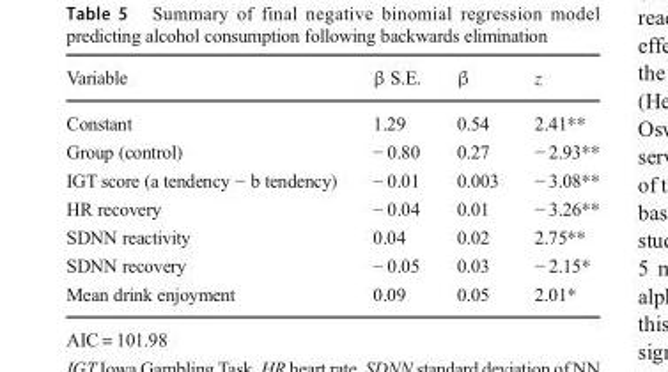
<table><thead><tr><td>Variable</td><td>β S.E.</td><td>β</td><td>z</td></tr></thead><tbody><tr><td>Constant</td><td>1.29</td><td>0.54</td><td>2.41**</td></tr><tr><td>Group (control)</td><td>− 0.80</td><td>0.27</td><td>− 2.93**</td></tr><tr><td>IGT score (a tendency − b tendency)</td><td>− 0.01</td><td>0.003</td><td>− 3.08**</td></tr><tr><td>HR recovery</td><td>− 0.04</td><td>0.01</td><td>− 3.26**</td></tr><tr><td>SDNN reactivity</td><td>0.04</td><td>0.02</td><td>2.75**</td></tr><tr><td>SDNN recovery</td><td>− 0.05</td><td>0.03</td><td>− 2.15*</td></tr><tr><td>Mean drink enjoyment</td><td>0.09</td><td>0.05</td><td>2.01*</td></tr></tbody></table>